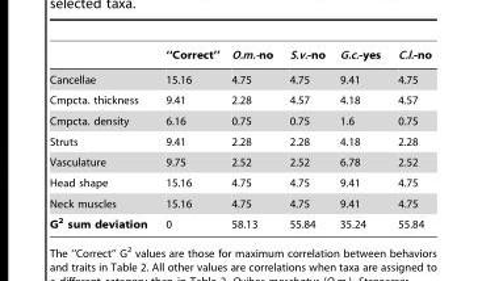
<table><thead><tr><td></td><td>‘‘Correct’’</td><td>O.m.-no</td><td>S.v.-no</td><td>G.c.-yes</td><td>C.l.-no</td></tr></thead><tbody><tr><td>Cancellae</td><td>15.16</td><td>4.75</td><td>4.75</td><td>9.41</td><td>4.75</td></tr><tr><td>Cmpcta. thickness</td><td>9.41</td><td>2.28</td><td>4.57</td><td>4.18</td><td>4.57</td></tr><tr><td>Cmpcta. density</td><td>6.16</td><td>0.75</td><td>0.75</td><td>1.6</td><td>0.75</td></tr><tr><td>Struts</td><td>9.41</td><td>2.28</td><td>2.28</td><td>4.18</td><td>2.28</td></tr><tr><td>Vasculature</td><td>9.75</td><td>2.52</td><td>2.52</td><td>6.78</td><td>2.52</td></tr><tr><td>Head shape</td><td>15.16</td><td>4.75</td><td>4.75</td><td>9.41</td><td>4.75</td></tr><tr><td>Neck muscles</td><td>15.16</td><td>4.75</td><td>4.75</td><td>9.41</td><td>4.75</td></tr><tr><td>G<sup>2</sup> sum deviation</td><td>0</td><td>58.13</td><td>55.84</td><td>35.24</td><td>55.84</td></tr></tbody></table>